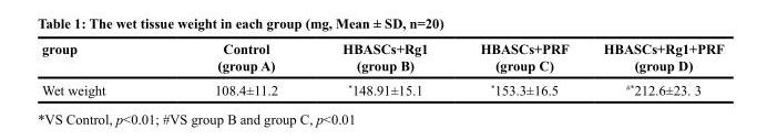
<table><thead><tr><td>group</td><td>Control (group A)</td><td>HBASCs+Rg1 (group B)</td><td>HBASCs+PRF (group C)</td><td>HBASCs+Rg1+PRF (group D)</td></tr></thead><tbody><tr><td>Wet weight</td><td>108.4±11.2</td><td>*148.91±15.1</td><td>*153.3±16.5</td><td><sup>#*</sup>212.6±23. 3</td></tr></tbody></table>